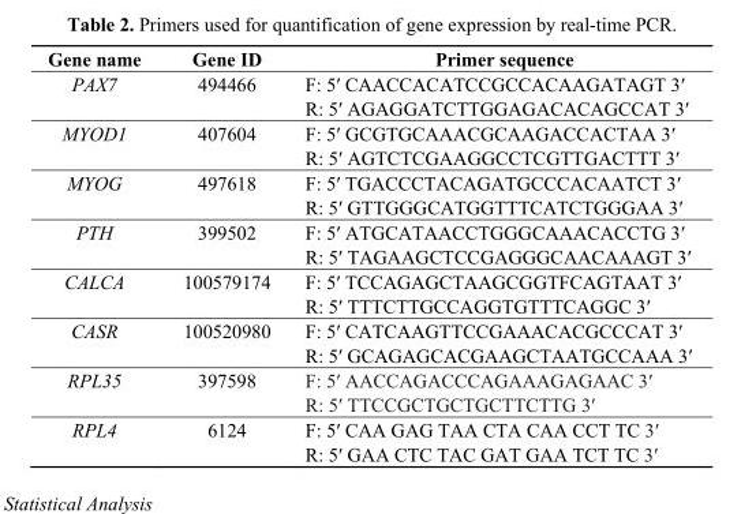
<table><thead><tr><td>Gene name</td><td>Gene ID</td><td>Primer sequence</td></tr></thead><tbody><tr><td rowspan="2">PAX7</td><td>494466</td><td>F: 5′ CAACCACATCCGCCACAAGATAGT 3′</td></tr><tr><td></td><td>R: 5′ AGAGGATCTTGGAGACACAGCCAT 3′</td></tr><tr><td rowspan="2">MYOD1</td><td>407604</td><td>F: 5′ GCGTGCAAACGCAAGACCACTAA 3′</td></tr><tr><td></td><td>R: 5′ AGTCTCGAAGGCCTCGTTGACTTT 3′</td></tr><tr><td rowspan="2">MYOG</td><td>497618</td><td>F: 5′ TGACCCTACAGATGCCCACAATCT 3′</td></tr><tr><td></td><td>R: 5′ GTTGGGCATGGTTTCATCTGGGAA 3′</td></tr><tr><td rowspan="2">PTH</td><td>399502</td><td>F: 5′ ATGCATAACCTGGGCAAACACCTG 3′</td></tr><tr><td></td><td>R: 5′ TAGAAGCTCCGAGGGCAACAAAGT 3′</td></tr><tr><td rowspan="2">CALCA</td><td>100579174</td><td>F: 5′ TCCAGAGCTAAGCGGTFCAGTAAT 3′</td></tr><tr><td></td><td>R: 5′ TTTCTTGCCAGGTGTTTCAGGC 3′</td></tr><tr><td rowspan="2">CASR</td><td>100520980</td><td>F: 5′ CATCAAGTTCCGAAACACGCCCAT 3′</td></tr><tr><td></td><td>R: 5′ GCAGAGCACGAAGCTAATGCCAAA 3′</td></tr><tr><td rowspan="2">RPL35</td><td>397598</td><td>F: 5′ AACCAGACCCAGAAAGAGAAC 3′</td></tr><tr><td></td><td>R: 5′ TTCCGCTGCTGCTTCTTG 3′</td></tr><tr><td rowspan="2">RPL4</td><td>6124</td><td>F: 5′ CAA GAG TAA CTA CAA CCT TC 3′</td></tr><tr><td></td><td>R: 5′ GAA CTC TAC GAT GAA TCT TC 3′</td></tr></tbody></table>